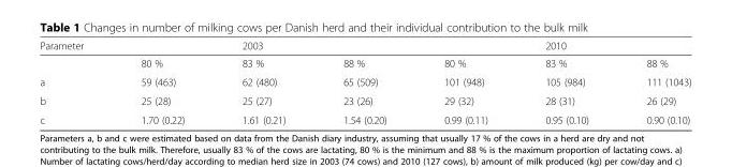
<table><thead><tr><td>Parameter</td><td></td><td>2003</td><td></td><td></td><td>2010</td><td></td></tr></thead><tbody><tr><td></td><td>80 %</td><td>83 %</td><td>88 %</td><td>80 %</td><td>83 %</td><td>88 %</td></tr><tr><td>a</td><td>59 (463)</td><td>62 (480)</td><td>65 (509)</td><td>101 (948)</td><td>105 (984)</td><td>111 (1043)</td></tr><tr><td>b</td><td>25 (28)</td><td>25 (27)</td><td>23 (26)</td><td>29 (32)</td><td>28 (31)</td><td>26 (29)</td></tr><tr><td>c</td><td>1.70 (0.22)</td><td>1.61 (0.21)</td><td>1.54 (0.20)</td><td>0.99 (0.11)</td><td>0.95 (0.10)</td><td>0.90 (0.10)</td></tr></tbody></table>